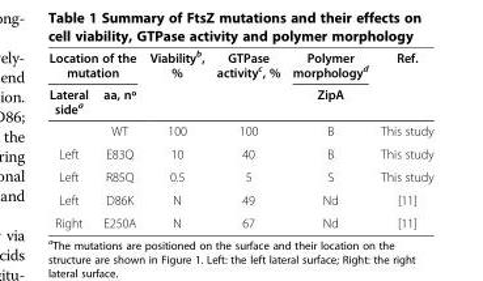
<table><thead><tr><td colspan="2">Location of the mutation</td><td rowspan="2">Viability<sup>b</sup>, %</td><td rowspan="2">GTPase activity<sup>c</sup>, %</td><td rowspan="2">Polymer morphology<sup>d</sup> ZipA</td><td rowspan="2">Ref.</td></tr><tr><td>Lateral side<sup>a</sup></td><td>aa, nº</td></tr></thead><tbody><tr><td></td><td>WT</td><td>100</td><td>100</td><td>B</td><td>This study</td></tr><tr><td>Left</td><td>E83Q</td><td>10</td><td>40</td><td>B</td><td>This study</td></tr><tr><td>Left</td><td>R85Q</td><td>0.5</td><td>5</td><td>S</td><td>This study</td></tr><tr><td>Left</td><td>D86K</td><td>N</td><td>49</td><td>Nd</td><td>[11]</td></tr><tr><td>Right</td><td>E250A</td><td>N</td><td>67</td><td>Nd</td><td>[11]</td></tr></tbody></table>